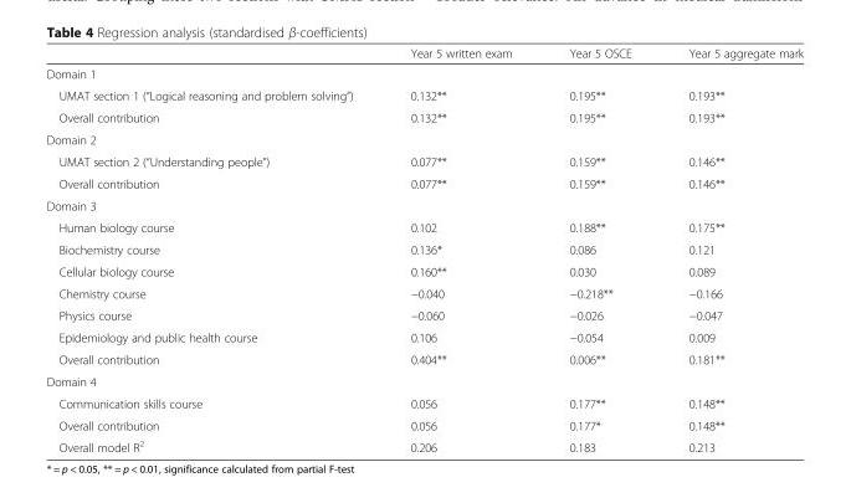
<table><thead><tr><td></td><td>Year 5 written exam</td><td>Year 5 OSCE</td><td>Year 5 aggregate mark</td></tr></thead><tbody><tr><td colspan="4">Domain 1</td></tr><tr><td>UMAT section 1 (“Logical reasoning and problem solving”)</td><td>0.132**</td><td>0.195**</td><td>0.193**</td></tr><tr><td>Overall contribution</td><td>0.132**</td><td>0.195**</td><td>0.193**</td></tr><tr><td colspan="4">Domain 2</td></tr><tr><td>UMAT section 2 (“Understanding people”)</td><td>0.077**</td><td>0.159**</td><td>0.146**</td></tr><tr><td>Overall contribution</td><td>0.077**</td><td>0.159**</td><td>0.146**</td></tr><tr><td colspan="4">Domain 3</td></tr><tr><td>Human biology course</td><td>0.102</td><td>0.188**</td><td>0.175**</td></tr><tr><td>Biochemistry course</td><td>0.136*</td><td>0.086</td><td>0.121</td></tr><tr><td>Cellular biology course</td><td>0.160**</td><td>0.030</td><td>0.089</td></tr><tr><td>Chemistry course</td><td>−0.040</td><td>−0.218**</td><td>−0.166</td></tr><tr><td>Physics course</td><td>−0.060</td><td>−0.026</td><td>−0.047</td></tr><tr><td>Epidemiology and public health course</td><td>0.106</td><td>−0.054</td><td>0.009</td></tr><tr><td>Overall contribution</td><td>0.404**</td><td>0.006**</td><td>0.181**</td></tr><tr><td colspan="4">Domain 4</td></tr><tr><td>Communication skills course</td><td>0.056</td><td>0.177**</td><td>0.148**</td></tr><tr><td>Overall contribution</td><td>0.056</td><td>0.177*</td><td>0.148**</td></tr><tr><td>Overall model R<sup>2</sup></td><td>0.206</td><td>0.183</td><td>0.213</td></tr></tbody></table>